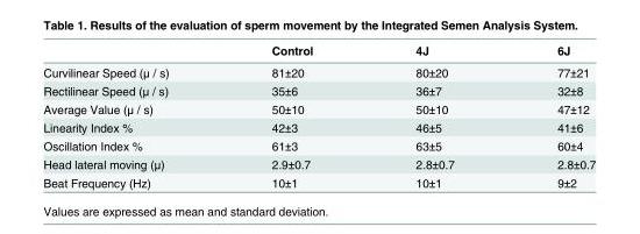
<table><thead><tr><td></td><td>Control</td><td>4J</td><td>6J</td></tr></thead><tbody><tr><td>Curvilinear Speed (μ / s)</td><td>81±20</td><td>80±20</td><td>77±21</td></tr><tr><td>Rectilinear Speed (μ / s)</td><td>35±6</td><td>36±7</td><td>32±8</td></tr><tr><td>Average Value (μ / s)</td><td>50±10</td><td>50±10</td><td>47±12</td></tr><tr><td>Linearity Index %</td><td>42±3</td><td>46±5</td><td>41±6</td></tr><tr><td>Oscillation Index %</td><td>61±3</td><td>63±5</td><td>60±4</td></tr><tr><td>Head lateral moving (μ)</td><td>2.9±0.7</td><td>2.8±0.7</td><td>2.8±0.7</td></tr><tr><td>Beat Frequency (Hz)</td><td>10±1</td><td>10±1</td><td>9±2</td></tr></tbody></table>